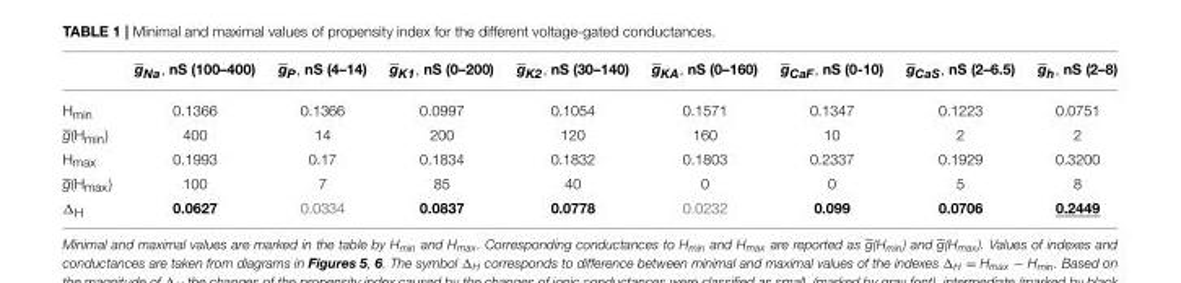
<table><thead><tr><td></td><td>gNa, nS (100–400)</td><td>gP, nS (4–14)</td><td>gK1, nS (0–200)</td><td>gK2, nS (30–140)</td><td>gKA, nS (0–160)</td><td>gCaF, nS (0-10)</td><td>gCaS, nS (2–6.5)</td><td>gh, nS (2–8)</td></tr></thead><tbody><tr><td>H<sub>min</sub></td><td>0.1366</td><td>0.1366</td><td>0.0997</td><td>0.1054</td><td>0.1571</td><td>0.1347</td><td>0.1223</td><td>0.0751</td></tr><tr><td>g(Hmin)</td><td>400</td><td>14</td><td>200</td><td>120</td><td>160</td><td>10</td><td>2</td><td>2</td></tr><tr><td>H<sub>max</sub></td><td>0.1993</td><td>0.17</td><td>0.1834</td><td>0.1832</td><td>0.1803</td><td>0.2337</td><td>0.1929</td><td>0.3200</td></tr><tr><td>g(Hmax)</td><td>100</td><td>7</td><td>85</td><td>40</td><td>0</td><td>0</td><td>5</td><td>8</td></tr><tr><td>Δ<sub>H</sub></td><td>0.0627</td><td>0.0334</td><td>0.0837</td><td>0.0778</td><td>0.0232</td><td>0.099</td><td>0.0706</td><td>0.2449</td></tr></tbody></table>